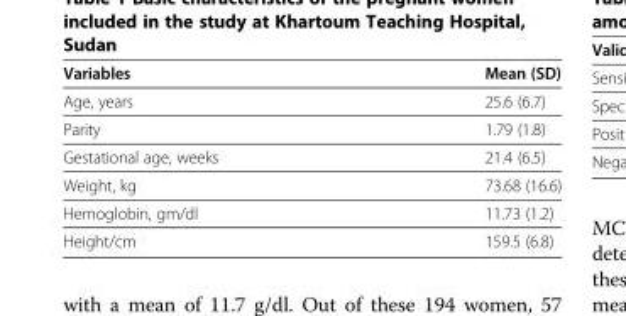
<table><thead><tr><td>Variables</td><td>Mean (SD)</td></tr></thead><tbody><tr><td>Age, years</td><td>25.6 (6.7)</td></tr><tr><td>Parity</td><td>1.79 (1.8)</td></tr><tr><td>Gestational age, weeks</td><td>21.4 (6.5)</td></tr><tr><td>Weight, kg</td><td>73.68 (16.6)</td></tr><tr><td>Hemoglobin, gm/dl</td><td>11.73 (1.2)</td></tr><tr><td>Height/cm</td><td>159.5 (6.8)</td></tr></tbody></table>